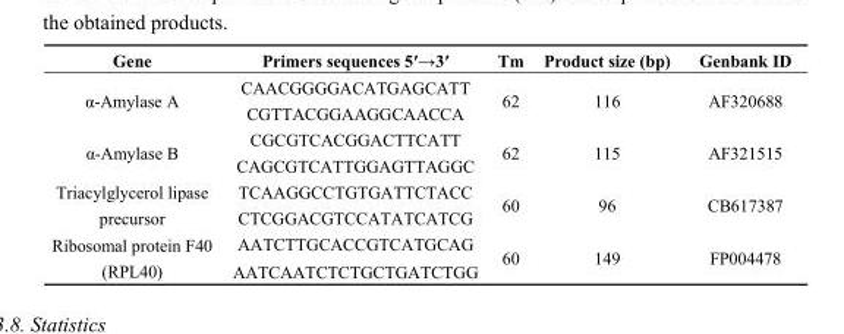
<table><thead><tr><td>Gene</td><td>Primers sequences 5′→3′</td><td>Tm</td><td>Product size (bp)</td><td>Genbank ID</td></tr></thead><tbody><tr><td rowspan="2">α-Amylase A</td><td>CAACGGGGACATGAGCATT</td><td rowspan="2">62</td><td rowspan="2">116</td><td rowspan="2">AF320688</td></tr><tr><td>CGTTACGGAAGGCAACCA</td></tr><tr><td rowspan="2">α-Amylase B</td><td>CGCGTCACGGACTTCATT</td><td rowspan="2">62</td><td rowspan="2">115</td><td rowspan="2">AF321515</td></tr><tr><td>CAGCGTCATTGGAGTTAGGC</td></tr><tr><td rowspan="2">Triacylglycerol lipase precursor</td><td>TCAAGGCCTGTGATTCTACC</td><td rowspan="2">60</td><td rowspan="2">96</td><td rowspan="2">CB617387</td></tr><tr><td>CTCGGACGTCCATATCATCG</td></tr><tr><td rowspan="2">Ribosomal protein F40 (RPL40)</td><td>AATCTTGCACCGTCATGCAG</td><td rowspan="2">60</td><td rowspan="2">149</td><td rowspan="2">FP004478</td></tr><tr><td>AATCAATCTCTGCTGATCTGG</td></tr></tbody></table>